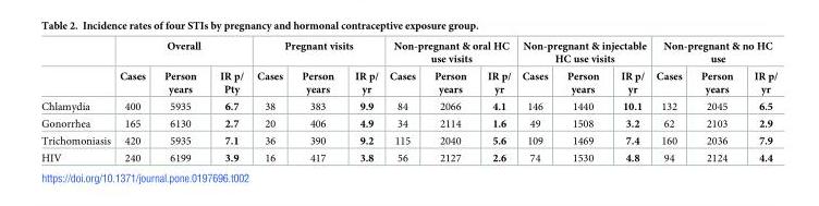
<table><thead><tr><td rowspan="2"></td><td colspan="3">Overall</td><td colspan="3">Pregnant visits</td><td colspan="3">Non-pregnant &amp; oral HC use visits</td><td colspan="3">Non-pregnant &amp; injectable HC use visits</td><td colspan="3">Non-pregnant &amp; no HC use</td></tr><tr><td>Cases</td><td>Person years</td><td>IR p/ Pty</td><td>Cases</td><td>Person years</td><td>IR p/ yr</td><td>Cases</td><td>Person years</td><td>IR p/ yr</td><td>Cases</td><td>Person years</td><td>IR p/ yr</td><td>Cases</td><td>Person years</td><td>IR p/ yr</td></tr></thead><tbody><tr><td>Chlamydia</td><td>400</td><td>5935</td><td>6.7</td><td>38</td><td>383</td><td>9.9</td><td>84</td><td>2066</td><td>4.1</td><td>146</td><td>1440</td><td>10.1</td><td>132</td><td>2045</td><td>6.5</td></tr><tr><td>Gonorrhea</td><td>165</td><td>6130</td><td>2.7</td><td>20</td><td>406</td><td>4.9</td><td>34</td><td>2114</td><td>1.6</td><td>49</td><td>1508</td><td>3.2</td><td>62</td><td>2103</td><td>2.9</td></tr><tr><td>Trichomoniasis</td><td>420</td><td>5935</td><td>7.1</td><td>36</td><td>390</td><td>9.2</td><td>115</td><td>2040</td><td>5.6</td><td>109</td><td>1469</td><td>7.4</td><td>160</td><td>2036</td><td>7.9</td></tr><tr><td>HIV</td><td>240</td><td>6199</td><td>3.9</td><td>16</td><td>417</td><td>3.8</td><td>56</td><td>2127</td><td>2.6</td><td>74</td><td>1530</td><td>4.8</td><td>94</td><td>2124</td><td>4.4</td></tr></tbody></table>